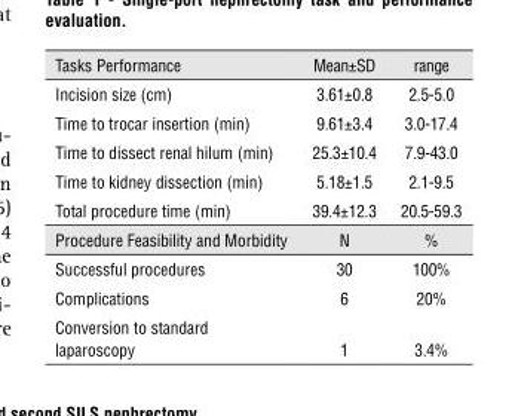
<table><thead><tr><td>Tasks Performance</td><td>Mean±SD</td><td>range</td></tr></thead><tbody><tr><td>Incision size (cm)</td><td>3.61±0.8</td><td>2.5-5.0</td></tr><tr><td>Time to trocar insertion (min)</td><td>9.61±3.4</td><td>3.0-17.4</td></tr><tr><td>Time to dissect renal hilum (min)</td><td>25.3±10.4</td><td>7.9-43.0</td></tr><tr><td>Time to kidney dissection (min)</td><td>5.18±1.5</td><td>2.1-9.5</td></tr><tr><td>Total procedure time (min)</td><td>39.4±12.3</td><td>20.5-59.3</td></tr><tr><td>Procedure Feasibility and Morbidity</td><td>N</td><td>%</td></tr><tr><td>Successful procedures</td><td>30</td><td>100%</td></tr><tr><td>Complications</td><td>6</td><td>20%</td></tr><tr><td>Conversion to standard laparoscopy</td><td>1</td><td>3.4%</td></tr></tbody></table>